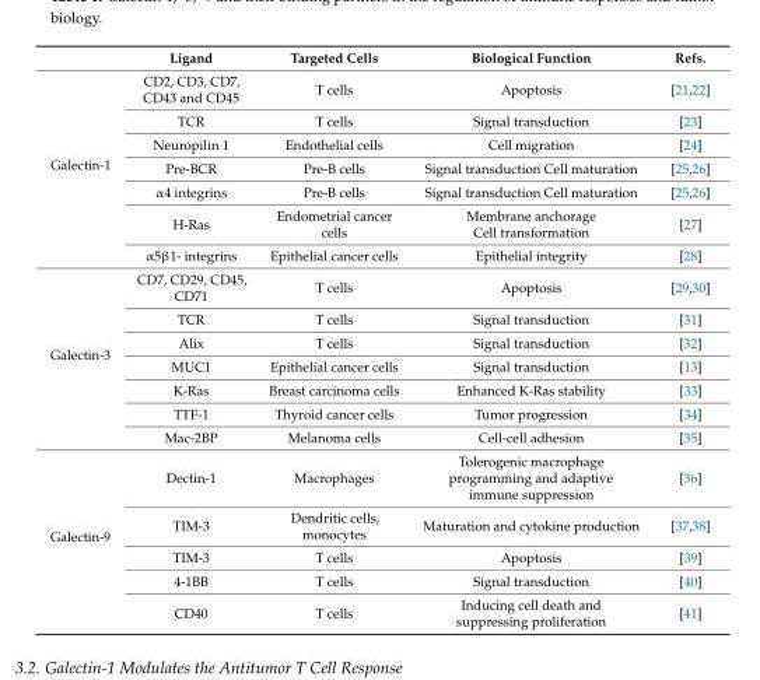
<table><thead><tr><td></td><td>Ligand</td><td>Targeted Cells</td><td>Biological Function</td><td>Refs.</td></tr></thead><tbody><tr><td rowspan="7">Galectin-1</td><td>CD2, CD3, CD7, CD43 and CD45</td><td>T cells</td><td>Apoptosis</td><td>[21,22]</td></tr><tr><td>TCR</td><td>T cells</td><td>Signal transduction</td><td>[23]</td></tr><tr><td>Neuropilin 1</td><td>Endothelial cells</td><td>Cell migration</td><td>[24]</td></tr><tr><td>Pre-BCR</td><td>Pre-B cells</td><td>Signal transduction Cell maturation</td><td>[25,26]</td></tr><tr><td>α4 integrins</td><td>Pre-B cells</td><td>Signal transduction Cell maturation</td><td>[25,26]</td></tr><tr><td>H-Ras</td><td>Endometrial cancer cells</td><td>Membrane anchorage Cell transformation</td><td>[27]</td></tr><tr><td>α5β1- integrins</td><td>Epithelial cancer cells</td><td>Epithelial integrity</td><td>[28]</td></tr><tr><td rowspan="7">Galectin-3</td><td>CD7, CD29, CD45, CD71</td><td>T cells</td><td>Apoptosis</td><td>[29,30]</td></tr><tr><td>TCR</td><td>T cells</td><td>Signal transduction</td><td>[31]</td></tr><tr><td>Alix</td><td>T cells</td><td>Signal transduction</td><td>[32]</td></tr><tr><td>MUC1</td><td>Epithelial cancer cells</td><td>Signal transduction</td><td>[13]</td></tr><tr><td>K-Ras</td><td>Breast carcinoma cells</td><td>Enhanced K-Ras stability</td><td>[33]</td></tr><tr><td>TTF-1</td><td>Thyroid cancer cells</td><td>Tumor progression</td><td>[34]</td></tr><tr><td>Mac-2BP</td><td>Melanoma cells</td><td>Cell-cell adhesion</td><td>[35]</td></tr><tr><td rowspan="5">Galectin-9</td><td>Dectin-1</td><td>Macrophages</td><td>Tolerogenic macrophage programming and adaptive immune suppression</td><td>[36]</td></tr><tr><td>TIM-3</td><td>Dendritic cells, monocytes</td><td>Maturation and cytokine production</td><td>[37,38]</td></tr><tr><td>TIM-3</td><td>T cells</td><td>Apoptosis</td><td>[39]</td></tr><tr><td>4-1BB</td><td>T cells</td><td>Signal transduction</td><td>[40]</td></tr><tr><td>CD40</td><td>T cells</td><td>Inducing cell death and suppressing proliferation</td><td>[41]</td></tr></tbody></table>